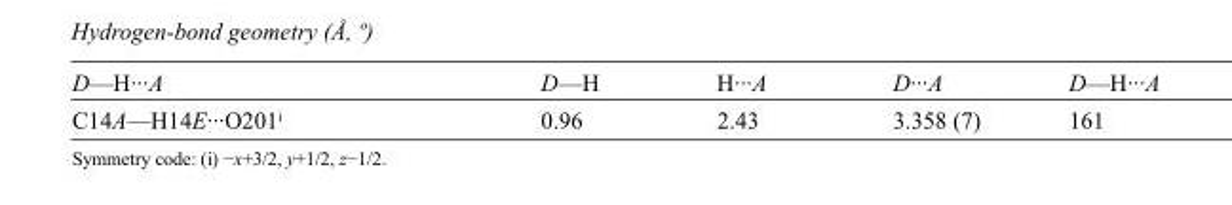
<table><tbody><tr><td>D—H···A</td><td>D—H</td><td>H···A</td><td>D···A</td><td>D—H···A</td></tr><tr><td>C14A—H14E···O201<sup>i</sup></td><td>0.96</td><td>2.43</td><td>3.358 (7)</td><td>161</td></tr></tbody></table>